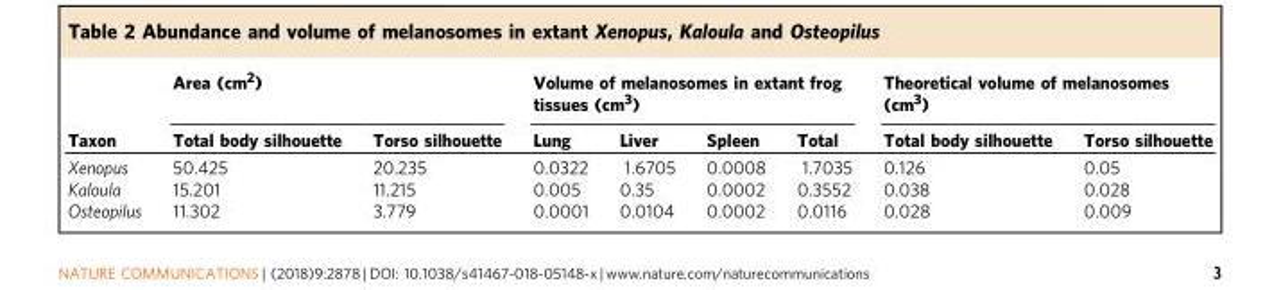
<table><thead><tr><td rowspan="2">Taxon</td><td colspan="2">Area (cm<sup>2</sup>)</td><td colspan="4">Volume of melanosomes in extant frog tissues (cm<sup>3</sup>)</td><td colspan="2">Theoretical volume of melanosomes (cm<sup>3</sup>)</td></tr><tr><td>Total body silhouette</td><td>Torso silhouette</td><td>Lung</td><td>Liver</td><td>Spleen</td><td>Total</td><td>Total body silhouette</td><td>Torso silhouette</td></tr></thead><tbody><tr><td>Xenopus</td><td>50.425</td><td>20.235</td><td>0.0322</td><td>1.6705</td><td>0.0008</td><td>1.7035</td><td>0.126</td><td>0.05</td></tr><tr><td>Kaloula</td><td>15.201</td><td>11.215</td><td>0.005</td><td>0.35</td><td>0.0002</td><td>0.3552</td><td>0.038</td><td>0.028</td></tr><tr><td>Osteopilus</td><td>11.302</td><td>3.779</td><td>0.0001</td><td>0.0104</td><td>0.0002</td><td>0.0116</td><td>0.028</td><td>0.009</td></tr></tbody></table>